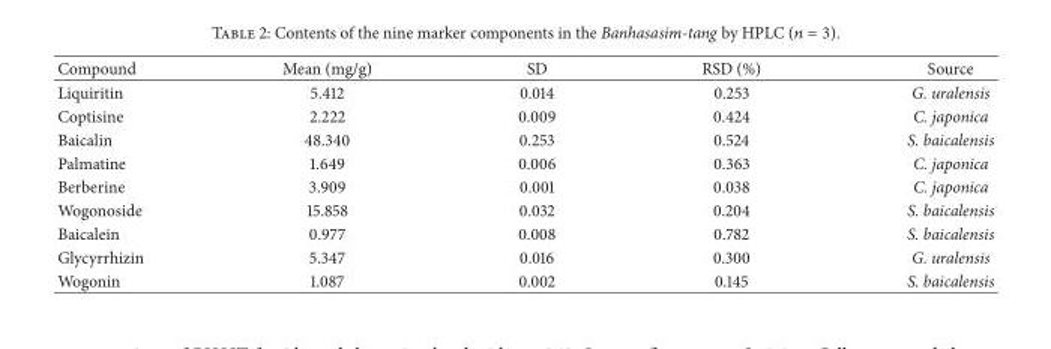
<table><thead><tr><td>Compound</td><td>Mean (mg/g)</td><td>SD</td><td>RSD (%)</td><td>Source</td></tr></thead><tbody><tr><td>Liquiritin</td><td>5.412</td><td>0.014</td><td>0.253</td><td>G. uralensis</td></tr><tr><td>Coptisine</td><td>2.222</td><td>0.009</td><td>0.424</td><td>C. japonica</td></tr><tr><td>Baicalin</td><td>48.340</td><td>0.253</td><td>0.524</td><td>S. baicalensis</td></tr><tr><td>Palmatine</td><td>1.649</td><td>0.006</td><td>0.363</td><td>C. japonica</td></tr><tr><td>Berberine</td><td>3.909</td><td>0.001</td><td>0.038</td><td>C. japonica</td></tr><tr><td>Wogonoside</td><td>15.858</td><td>0.032</td><td>0.204</td><td>S. baicalensis</td></tr><tr><td>Baicalein</td><td>0.977</td><td>0.008</td><td>0.782</td><td>S. baicalensis</td></tr><tr><td>Glycyrrhizin</td><td>5.347</td><td>0.016</td><td>0.300</td><td>G. uralensis</td></tr><tr><td>Wogonin</td><td>1.087</td><td>0.002</td><td>0.145</td><td>S. baicalensis</td></tr></tbody></table>